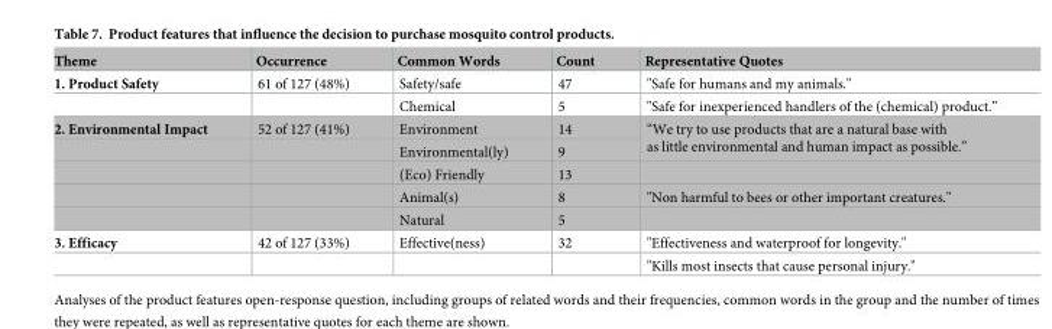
<table><thead><tr><td>Theme</td><td>Occurrence</td><td>Common Words</td><td>Count</td><td>Representative Quotes</td></tr></thead><tbody><tr><td rowspan="2">1. Product Safety</td><td>61 of 127 (48%)</td><td>Safety/safe</td><td>47</td><td>&quot;Safe for humans and my animals.&quot;</td></tr><tr><td></td><td>Chemical</td><td>5</td><td>&quot;Safe for inexperienced handlers of the (chemical) product.”</td></tr><tr><td rowspan="5">2. Environmental Impact</td><td>52 of 127 (41%)</td><td>Environment</td><td>14</td><td rowspan="2">“We try to use products that are a natural base with as little environmental and human impact as possible.”</td></tr><tr><td></td><td>Environmental(ly)</td><td>9</td></tr><tr><td></td><td>(Eco) Friendly</td><td>13</td><td></td></tr><tr><td></td><td>Animal(s)</td><td>8</td><td>&quot;Non harmful to bees or other important creatures.&quot;</td></tr><tr><td></td><td>Natural</td><td>5</td><td></td></tr><tr><td rowspan="2">3. Efficacy</td><td>42 of 127 (33%)</td><td>Effective(ness)</td><td>32</td><td>&quot;Effectiveness and waterproof for longevity.&quot;</td></tr><tr><td></td><td></td><td></td><td>&quot;Kills most insects that cause personal injury.&quot;</td></tr></tbody></table>